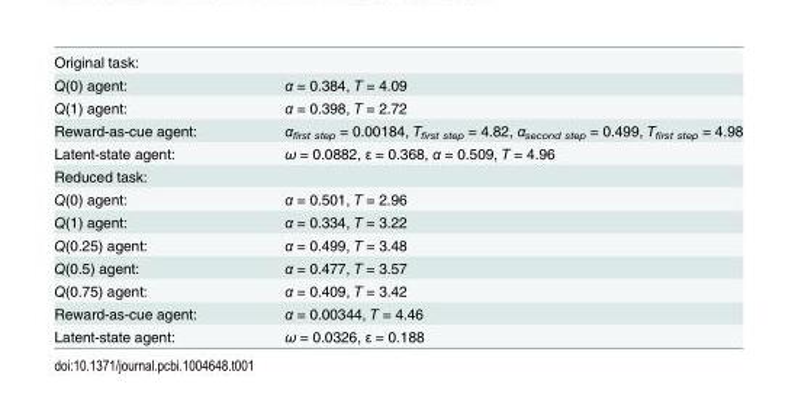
<table><tbody><tr><td colspan="2">Original task:</td></tr><tr><td>Q(0) agent:</td><td>α = 0.384, T = 4.09</td></tr><tr><td>Q(1) agent:</td><td>α = 0.398, T = 2.72</td></tr><tr><td>Reward-as-cue agent:</td><td>α<sub>first step</sub> = 0.00184, T<sub>first step</sub> = 4.82, α<sub>second step</sub> = 0.499, T<sub>first step</sub> = 4.98</td></tr><tr><td>Latent-state agent:</td><td>ω = 0.0882, ε = 0.368, α = 0.509, T = 4.96</td></tr><tr><td colspan="2">Reduced task:</td></tr><tr><td>Q(0) agent:</td><td>α = 0.501, T = 2.96</td></tr><tr><td>Q(1) agent:</td><td>α = 0.334, T = 3.22</td></tr><tr><td>Q(0.25) agent:</td><td>α = 0.499, T = 3.48</td></tr><tr><td>Q(0.5) agent:</td><td>α = 0.477, T = 3.57</td></tr><tr><td>Q(0.75) agent:</td><td>α = 0.409, T = 3.42</td></tr><tr><td>Reward-as-cue agent:</td><td>α = 0.00344, T = 4.46</td></tr><tr><td>Latent-state agent:</td><td>ω = 0.0326, ε = 0.188</td></tr></tbody></table>